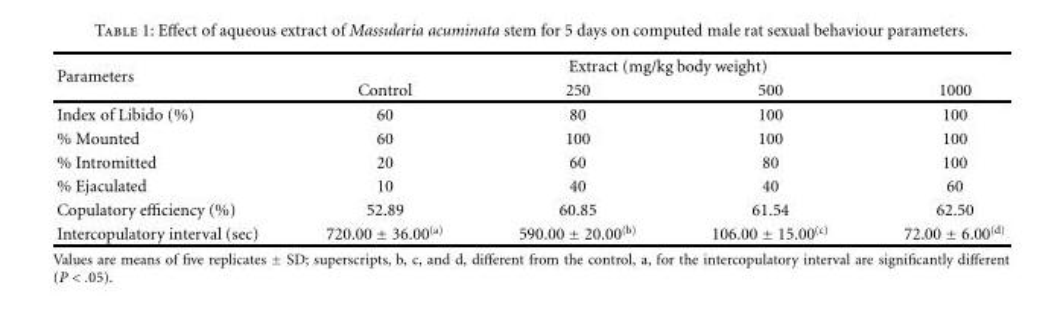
<table><thead><tr><td rowspan="2">Parameters</td><td colspan="4">Extract (mg/kg body weight)</td></tr><tr><td>Control</td><td>250</td><td>500</td><td>1000</td></tr></thead><tbody><tr><td>Index of Libido (%)</td><td>60</td><td>80</td><td>100</td><td>100</td></tr><tr><td>% Mounted</td><td>60</td><td>100</td><td>100</td><td>100</td></tr><tr><td>% Intromitted</td><td>20</td><td>60</td><td>80</td><td>100</td></tr><tr><td>% Ejaculated</td><td>10</td><td>40</td><td>40</td><td>60</td></tr><tr><td>Copulatory efficiency (%)</td><td>52.89</td><td>60.85</td><td>61.54</td><td>62.50</td></tr><tr><td>Intercopulatory interval (sec)</td><td>720.00 ± 36.00<sup>(a)</sup></td><td>590.00 ± 20.00<sup>(b)</sup></td><td>106.00 ± 15.00<sup>(c)</sup></td><td>72.00 ± 6.00<sup>(d)</sup></td></tr></tbody></table>